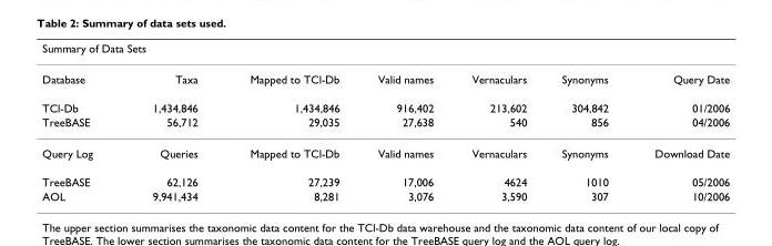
<table><thead><tr><td colspan="7">Summary of Data Sets</td></tr><tr><td>Database</td><td>Taxa</td><td>Mapped to TCl-Db</td><td>Valid names</td><td>Vernaculars</td><td>Synonyms</td><td>Query Date</td></tr></thead><tbody><tr><td>TCl-Db</td><td>1,434,846</td><td>1,434,846</td><td>916,402</td><td>213,602</td><td>304,842</td><td>01/2006</td></tr><tr><td>TreeBASE</td><td>56,712</td><td>29,035</td><td>27,638</td><td>540</td><td>856</td><td>04/2006</td></tr><tr><td>Query Log</td><td>Queries</td><td>Mapped to TCl-Db</td><td>Valid names</td><td>Vernaculars</td><td>Synonyms</td><td>Download Date</td></tr><tr><td>TreeBASE</td><td>62,126</td><td>27,239</td><td>17,006</td><td>4624</td><td>1010</td><td>05/2006</td></tr><tr><td>AOL</td><td>9,941,434</td><td>8,281</td><td>3,076</td><td>3,590</td><td>307</td><td>10/2006</td></tr></tbody></table>